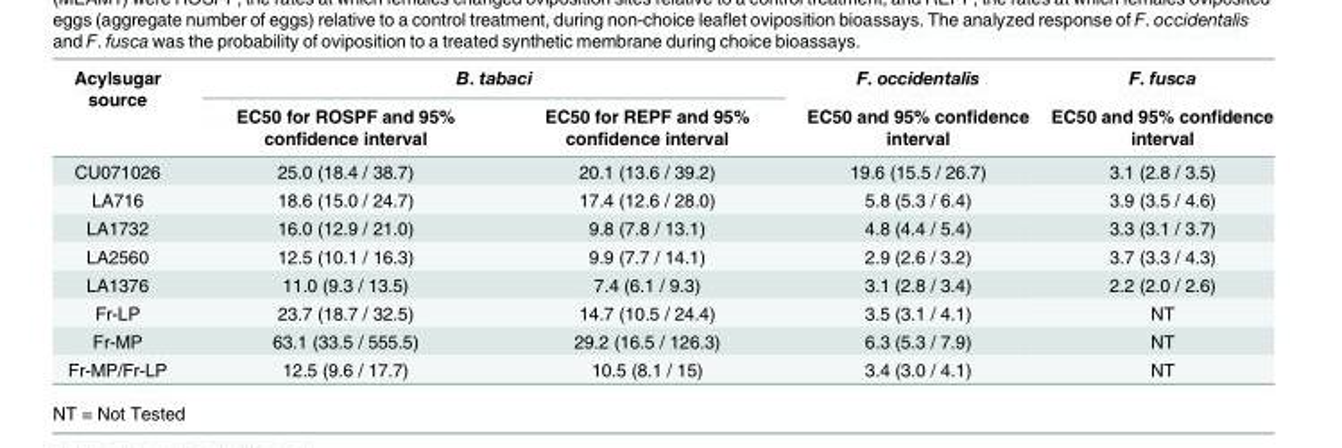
<table><thead><tr><td rowspan="2">Acylsugar source</td><td colspan="2">B. tabaci</td><td rowspan="2">F. occidentalis EC50 and 95% confidence interval</td><td rowspan="2">F. fusca EC50 and 95% confidence interval</td></tr><tr><td>EC50 for ROSPF and 95% confidence interval</td><td>EC50 for REPF and 95% confidence interval</td></tr></thead><tbody><tr><td>CU071026</td><td>25.0 (18.4 / 38.7)</td><td>20.1 (13.6 / 39.2)</td><td>19.6 (15.5 / 26.7)</td><td>3.1 (2.8 / 3.5)</td></tr><tr><td>LA716</td><td>18.6 (15.0 / 24.7)</td><td>17.4 (12.6 / 28.0)</td><td>5.8 (5.3 / 6.4)</td><td>3.9 (3.5 / 4.6)</td></tr><tr><td>LA1732</td><td>16.0 (12.9 / 21.0)</td><td>9.8 (7.8 / 13.1)</td><td>4.8 (4.4 / 5.4)</td><td>3.3 (3.1 / 3.7)</td></tr><tr><td>LA2560</td><td>12.5 (10.1 / 16.3)</td><td>9.9 (7.7 / 14.1)</td><td>2.9 (2.6 / 3.2)</td><td>3.7 (3.3 / 4.3)</td></tr><tr><td>LA1376</td><td>11.0 (9.3 / 13.5)</td><td>7.4 (6.1 / 9.3)</td><td>3.1 (2.8 / 3.4)</td><td>2.2 (2.0 / 2.6)</td></tr><tr><td>Fr-LP</td><td>23.7 (18.7 / 32.5)</td><td>14.7 (10.5 / 24.4)</td><td>3.5 (3.1 / 4.1)</td><td>NT</td></tr><tr><td>Fr-MP</td><td>63.1 (33.5 / 555.5)</td><td>29.2 (16.5 / 126.3)</td><td>6.3 (5.3 / 7.9)</td><td>NT</td></tr><tr><td>Fr-MP/Fr-LP</td><td>12.5 (9.6 / 17.7)</td><td>10.5 (8.1 / 15)</td><td>3.4 (3.0 / 4.1)</td><td>NT</td></tr></tbody></table>